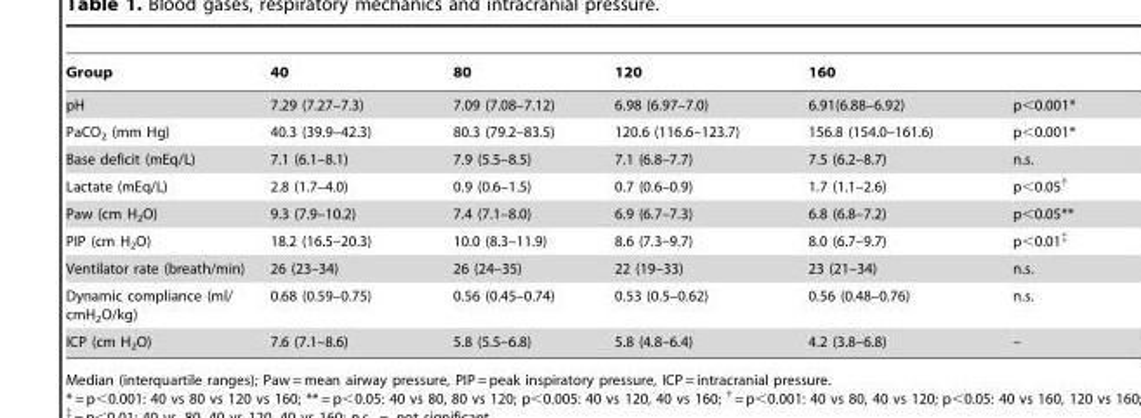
<table><thead><tr><td>Group</td><td>40</td><td>80</td><td>120</td><td>160</td><td></td></tr></thead><tbody><tr><td>pH</td><td>7.29 (7.27–7.3)</td><td>7.09 (7.08–7.12)</td><td>6.98 (6.97–7.0)</td><td>6.91(6.88–6.92)</td><td>p&lt;0.001*</td></tr><tr><td>PaCO<sub>2</sub> (mm Hg)</td><td>40.3 (39.9–42.3)</td><td>80.3 (79.2–83.5)</td><td>120.6 (116.6–123.7)</td><td>156.8 (154.0–161.6)</td><td>p&lt;0.001*</td></tr><tr><td>Base deficit (mEq/L)</td><td>7.1 (6.1–8.1)</td><td>7.9 (5.5–8.5)</td><td>7.1 (6.8–7.7)</td><td>7.5 (6.2–8.7)</td><td>n.s.</td></tr><tr><td>Lactate (mEq/L)</td><td>2.8 (1.7–4.0)</td><td>0.9 (0.6–1.5)</td><td>0.7 (0.6–0.9)</td><td>1.7 (1.1–2.6)</td><td>p&lt;0.05<sup>†</sup></td></tr><tr><td>Paw (cm H<sub>2</sub>O)</td><td>9.3 (7.9–10.2)</td><td>7.4 (7.1–8.0)</td><td>6.9 (6.7–7.3)</td><td>6.8 (6.8–7.2)</td><td>p&lt;0.05**</td></tr><tr><td>PIP (cm H<sub>2</sub>O)</td><td>18.2 (16.5–20.3)</td><td>10.0 (8.3–11.9)</td><td>8.6 (7.3–9.7)</td><td>8.0 (6.7–9.7)</td><td>p&lt;0.01<sup>‡</sup></td></tr><tr><td>Ventilator rate (breath/min)</td><td>26 (23–34)</td><td>26 (24–35)</td><td>22 (19–33)</td><td>23 (21–34)</td><td>n.s.</td></tr><tr><td>Dynamic compliance (ml/ cmH<sub>2</sub>O/kg)</td><td>0.68 (0.59–0.75)</td><td>0.56 (0.45–0.74)</td><td>0.53 (0.5–0.62)</td><td>0.56 (0.48–0.76)</td><td>n.s.</td></tr><tr><td>ICP (cm H<sub>2</sub>O)</td><td>7.6 (7.1–8.6)</td><td>5.8 (5.5–6.8)</td><td>5.8 (4.8–6.4)</td><td>4.2 (3.8–6.8)</td><td>–</td></tr></tbody></table>